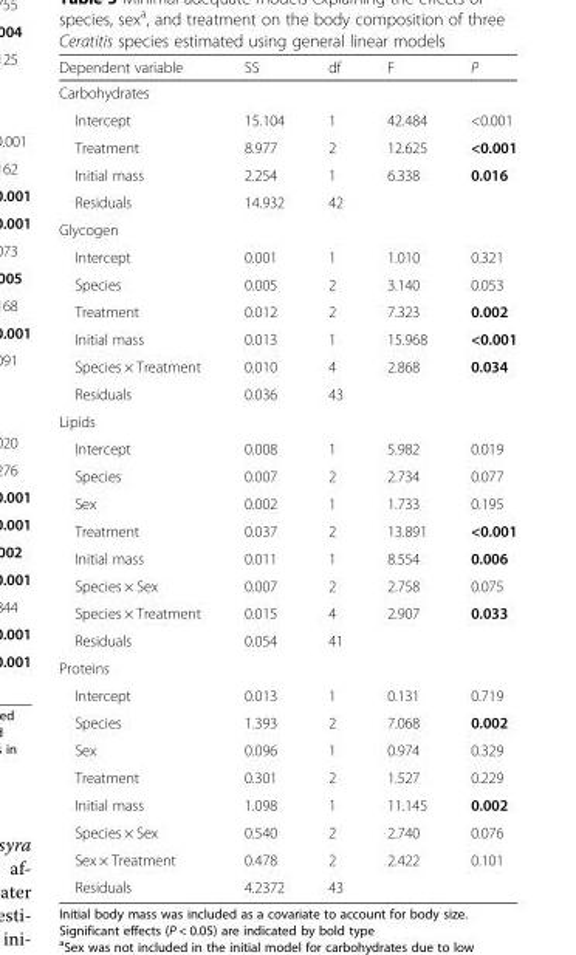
<table><thead><tr><td>Dependent variable</td><td>SS</td><td>df</td><td>F</td><td>P</td></tr></thead><tbody><tr><td colspan="5">Carbohydrates</td></tr><tr><td>Intercept</td><td>15.104</td><td>1</td><td>42.484</td><td>&lt;0.001</td></tr><tr><td>Treatment</td><td>8.977</td><td>2</td><td>12.625</td><td>&lt;0.001</td></tr><tr><td>Initial mass</td><td>2.254</td><td>1</td><td>6.338</td><td>0.016</td></tr><tr><td>Residuals</td><td>14.932</td><td>42</td><td></td><td></td></tr><tr><td colspan="5">Glycogen</td></tr><tr><td>Intercept</td><td>0.001</td><td>1</td><td>1.010</td><td>0.321</td></tr><tr><td>Species</td><td>0.005</td><td>2</td><td>3.140</td><td>0.053</td></tr><tr><td>Treatment</td><td>0.012</td><td>2</td><td>7.323</td><td>0.002</td></tr><tr><td>Initial mass</td><td>0.013</td><td>1</td><td>15.968</td><td>&lt;0.001</td></tr><tr><td>Species × Treatment</td><td>0.010</td><td>4</td><td>2.868</td><td>0.034</td></tr><tr><td>Residuals</td><td>0.036</td><td>43</td><td></td><td></td></tr><tr><td colspan="5">Lipids</td></tr><tr><td>Intercept</td><td>0.008</td><td>1</td><td>5.982</td><td>0.019</td></tr><tr><td>Species</td><td>0.007</td><td>2</td><td>2.734</td><td>0.077</td></tr><tr><td>Sex</td><td>0.002</td><td>1</td><td>1.733</td><td>0.195</td></tr><tr><td>Treatment</td><td>0.037</td><td>2</td><td>13.891</td><td>&lt;0.001</td></tr><tr><td>Initial mass</td><td>0.011</td><td>1</td><td>8.554</td><td>0.006</td></tr><tr><td>Species × Sex</td><td>0.007</td><td>2</td><td>2.758</td><td>0.075</td></tr><tr><td>Species × Treatment</td><td>0.015</td><td>4</td><td>2.907</td><td>0.033</td></tr><tr><td>Residuals</td><td>0.054</td><td>41</td><td></td><td></td></tr><tr><td colspan="5">Proteins</td></tr><tr><td>Intercept</td><td>0.013</td><td>1</td><td>0.131</td><td>0.719</td></tr><tr><td>Species</td><td>1.393</td><td>2</td><td>7.068</td><td>0.002</td></tr><tr><td>Sex</td><td>0.096</td><td>1</td><td>0.974</td><td>0.329</td></tr><tr><td>Treatment</td><td>0.301</td><td>2</td><td>1.527</td><td>0.229</td></tr><tr><td>Initial mass</td><td>1.098</td><td>1</td><td>11.145</td><td>0.002</td></tr><tr><td>Species × Sex</td><td>0.540</td><td>2</td><td>2.740</td><td>0.076</td></tr><tr><td>Sex × Treatment</td><td>0.478</td><td>2</td><td>2.422</td><td>0.101</td></tr><tr><td>Residuals</td><td>4.2372</td><td>43</td><td></td><td></td></tr></tbody></table>